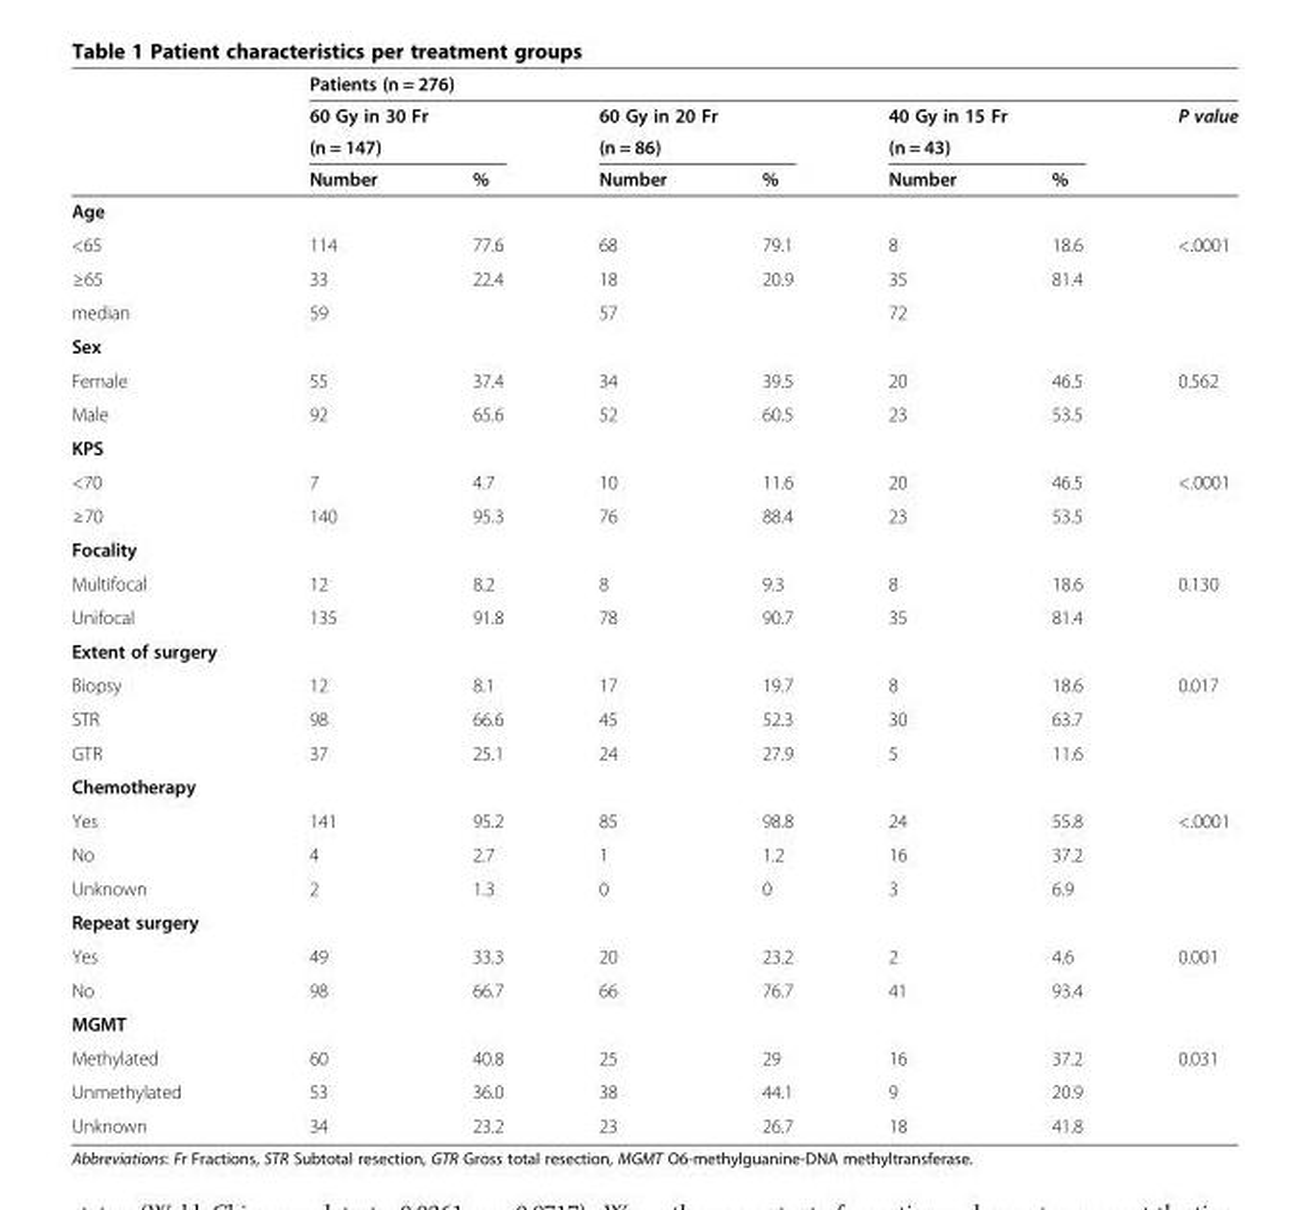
<table><thead><tr><td rowspan="4"></td><td colspan="7">Patients (n = 276)</td></tr><tr><td rowspan="2" colspan="2">60 Gy in 30 Fr (n = 147)</td><td rowspan="2" colspan="2">60 Gy in 20 Fr (n = 86)</td><td rowspan="2" colspan="2">40 Gy in 15 Fr (n = 43)</td><td rowspan="3">P value</td></tr><tr></tr><tr><td>Number</td><td>%</td><td>Number</td><td>%</td><td>Number</td><td>%</td></tr></thead><tbody><tr><td colspan="8">Age</td></tr><tr><td>&lt;65</td><td>114</td><td>77.6</td><td>68</td><td>79.1</td><td>8</td><td>18.6</td><td>&lt;.0001</td></tr><tr><td>≥65</td><td>33</td><td>22.4</td><td>18</td><td>20.9</td><td>35</td><td>81.4</td><td></td></tr><tr><td>median</td><td>59</td><td></td><td>57</td><td></td><td>72</td><td></td><td></td></tr><tr><td colspan="8">Sex</td></tr><tr><td>Female</td><td>55</td><td>37.4</td><td>34</td><td>39.5</td><td>20</td><td>46.5</td><td>0.562</td></tr><tr><td>Male</td><td>92</td><td>65.6</td><td>52</td><td>60.5</td><td>23</td><td>53.5</td><td></td></tr><tr><td colspan="8">KPS</td></tr><tr><td>&lt;70</td><td>7</td><td>4.7</td><td>10</td><td>11.6</td><td>20</td><td>46.5</td><td>&lt;.0001</td></tr><tr><td>≥70</td><td>140</td><td>95.3</td><td>76</td><td>88.4</td><td>23</td><td>53.5</td><td></td></tr><tr><td colspan="8">Focality</td></tr><tr><td>Multifocal</td><td>12</td><td>8.2</td><td>8</td><td>9.3</td><td>8</td><td>18.6</td><td>0.130</td></tr><tr><td>Unifocal</td><td>135</td><td>91.8</td><td>78</td><td>90.7</td><td>35</td><td>81.4</td><td></td></tr><tr><td colspan="8">Extent of surgery</td></tr><tr><td>Biopsy</td><td>12</td><td>8.1</td><td>17</td><td>19.7</td><td>8</td><td>18.6</td><td>0.017</td></tr><tr><td>STR</td><td>98</td><td>66.6</td><td>45</td><td>52.3</td><td>30</td><td>63.7</td><td></td></tr><tr><td>GTR</td><td>37</td><td>25.1</td><td>24</td><td>27.9</td><td>5</td><td>11.6</td><td></td></tr><tr><td colspan="8">Chemotherapy</td></tr><tr><td>Yes</td><td>141</td><td>95.2</td><td>85</td><td>98.8</td><td>24</td><td>55.8</td><td>&lt;.0001</td></tr><tr><td>No</td><td>4</td><td>2.7</td><td>1</td><td>1.2</td><td>16</td><td>37.2</td><td></td></tr><tr><td>Unknown</td><td>2</td><td>1.3</td><td>0</td><td>0</td><td>3</td><td>6.9</td><td></td></tr><tr><td colspan="8">Repeat surgery</td></tr><tr><td>Yes</td><td>49</td><td>33.3</td><td>20</td><td>23.2</td><td>2</td><td>4.6</td><td>0.001</td></tr><tr><td>No</td><td>98</td><td>66.7</td><td>66</td><td>76.7</td><td>41</td><td>93.4</td><td></td></tr><tr><td colspan="8">MGMT</td></tr><tr><td>Methylated</td><td>60</td><td>40.8</td><td>25</td><td>29</td><td>16</td><td>37.2</td><td>0.031</td></tr><tr><td>Unmethylated</td><td>53</td><td>36.0</td><td>38</td><td>44.1</td><td>9</td><td>20.9</td><td></td></tr><tr><td>Unknown</td><td>34</td><td>23.2</td><td>23</td><td>26.7</td><td>18</td><td>41.8</td><td></td></tr></tbody></table>